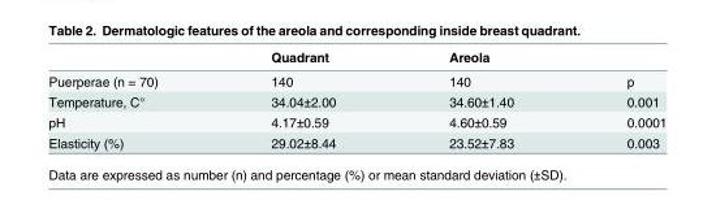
<table><thead><tr><td></td><td>Quadrant</td><td>Areola</td><td></td></tr></thead><tbody><tr><td>Puerperae (n = 70)</td><td>140</td><td>140</td><td>p</td></tr><tr><td>Temperature, C°</td><td>34.04±2.00</td><td>34.60±1.40</td><td>0.001</td></tr><tr><td>pH</td><td>4.17±0.59</td><td>4.60±0.59</td><td>0.0001</td></tr><tr><td>Elasticity (%)</td><td>29.02±8.44</td><td>23.52±7.83</td><td>0.003</td></tr></tbody></table>